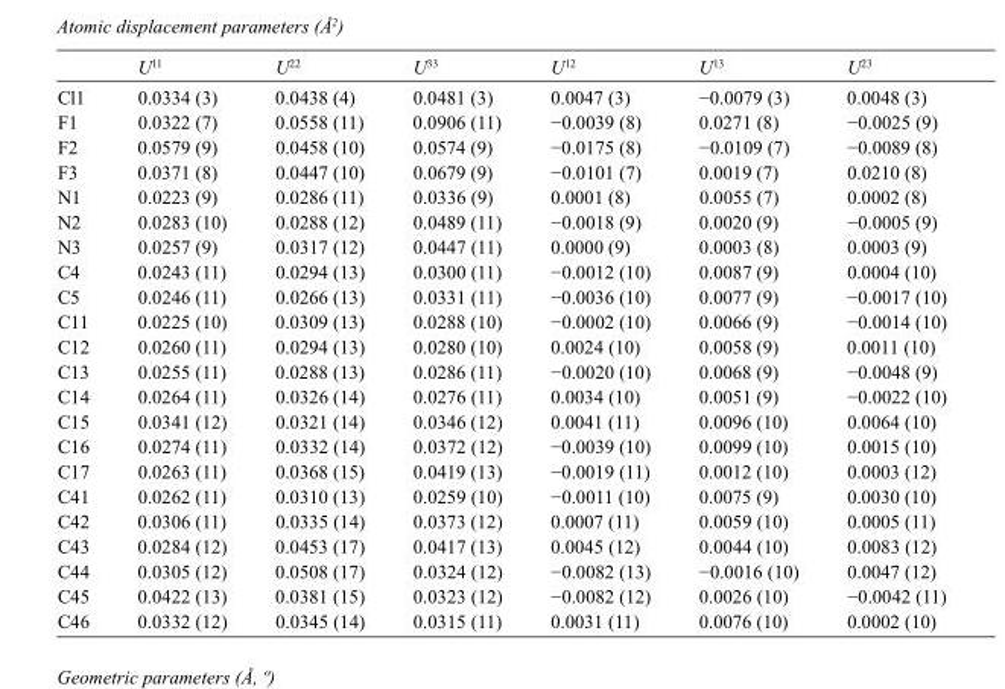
<table><thead><tr><td></td><td>U<sup>11</sup></td><td>U<sup>22</sup></td><td>U<sup>33</sup></td><td>U<sup>12</sup></td><td>U<sup>13</sup></td><td>U<sup>23</sup></td></tr></thead><tbody><tr><td>Cl1</td><td>0.0334 (3)</td><td>0.0438 (4)</td><td>0.0481 (3)</td><td>0.0047 (3)</td><td>−0.0079 (3)</td><td>0.0048 (3)</td></tr><tr><td>F1</td><td>0.0322 (7)</td><td>0.0558 (11)</td><td>0.0906 (11)</td><td>−0.0039 (8)</td><td>0.0271 (8)</td><td>−0.0025 (9)</td></tr><tr><td>F2</td><td>0.0579 (9)</td><td>0.0458 (10)</td><td>0.0574 (9)</td><td>−0.0175 (8)</td><td>−0.0109 (7)</td><td>−0.0089 (8)</td></tr><tr><td>F3</td><td>0.0371 (8)</td><td>0.0447 (10)</td><td>0.0679 (9)</td><td>−0.0101 (7)</td><td>0.0019 (7)</td><td>0.0210 (8)</td></tr><tr><td>N1</td><td>0.0223 (9)</td><td>0.0286 (11)</td><td>0.0336 (9)</td><td>0.0001 (8)</td><td>0.0055 (7)</td><td>0.0002 (8)</td></tr><tr><td>N2</td><td>0.0283 (10)</td><td>0.0288 (12)</td><td>0.0489 (11)</td><td>−0.0018 (9)</td><td>0.0020 (9)</td><td>−0.0005 (9)</td></tr><tr><td>N3</td><td>0.0257 (9)</td><td>0.0317 (12)</td><td>0.0447 (11)</td><td>0.0000 (9)</td><td>0.0003 (8)</td><td>0.0003 (9)</td></tr><tr><td>C4</td><td>0.0243 (11)</td><td>0.0294 (13)</td><td>0.0300 (11)</td><td>−0.0012 (10)</td><td>0.0087 (9)</td><td>0.0004 (10)</td></tr><tr><td>C5</td><td>0.0246 (11)</td><td>0.0266 (13)</td><td>0.0331 (11)</td><td>−0.0036 (10)</td><td>0.0077 (9)</td><td>−0.0017 (10)</td></tr><tr><td>C11</td><td>0.0225 (10)</td><td>0.0309 (13)</td><td>0.0288 (10)</td><td>−0.0002 (10)</td><td>0.0066 (9)</td><td>−0.0014 (10)</td></tr><tr><td>C12</td><td>0.0260 (11)</td><td>0.0294 (13)</td><td>0.0280 (10)</td><td>0.0024 (10)</td><td>0.0058 (9)</td><td>0.0011 (10)</td></tr><tr><td>C13</td><td>0.0255 (11)</td><td>0.0288 (13)</td><td>0.0286 (11)</td><td>−0.0020 (10)</td><td>0.0068 (9)</td><td>−0.0048 (9)</td></tr><tr><td>C14</td><td>0.0264 (11)</td><td>0.0326 (14)</td><td>0.0276 (11)</td><td>0.0034 (10)</td><td>0.0051 (9)</td><td>−0.0022 (10)</td></tr><tr><td>C15</td><td>0.0341 (12)</td><td>0.0321 (14)</td><td>0.0346 (12)</td><td>0.0041 (11)</td><td>0.0096 (10)</td><td>0.0064 (10)</td></tr><tr><td>C16</td><td>0.0274 (11)</td><td>0.0332 (14)</td><td>0.0372 (12)</td><td>−0.0039 (10)</td><td>0.0099 (10)</td><td>0.0015 (10)</td></tr><tr><td>C17</td><td>0.0263 (11)</td><td>0.0368 (15)</td><td>0.0419 (13)</td><td>−0.0019 (11)</td><td>0.0012 (10)</td><td>0.0003 (12)</td></tr><tr><td>C41</td><td>0.0262 (11)</td><td>0.0310 (13)</td><td>0.0259 (10)</td><td>−0.0011 (10)</td><td>0.0075 (9)</td><td>0.0030 (10)</td></tr><tr><td>C42</td><td>0.0306 (11)</td><td>0.0335 (14)</td><td>0.0373 (12)</td><td>0.0007 (11)</td><td>0.0059 (10)</td><td>0.0005 (11)</td></tr><tr><td>C43</td><td>0.0284 (12)</td><td>0.0453 (17)</td><td>0.0417 (13)</td><td>0.0045 (12)</td><td>0.0044 (10)</td><td>0.0083 (12)</td></tr><tr><td>C44</td><td>0.0305 (12)</td><td>0.0508 (17)</td><td>0.0324 (12)</td><td>−0.0082 (13)</td><td>−0.0016 (10)</td><td>0.0047 (12)</td></tr><tr><td>C45</td><td>0.0422 (13)</td><td>0.0381 (15)</td><td>0.0323 (12)</td><td>−0.0082 (12)</td><td>0.0026 (10)</td><td>−0.0042 (11)</td></tr><tr><td>C46</td><td>0.0332 (12)</td><td>0.0345 (14)</td><td>0.0315 (11)</td><td>0.0031 (11)</td><td>0.0076 (10)</td><td>0.0002 (10)</td></tr></tbody></table>